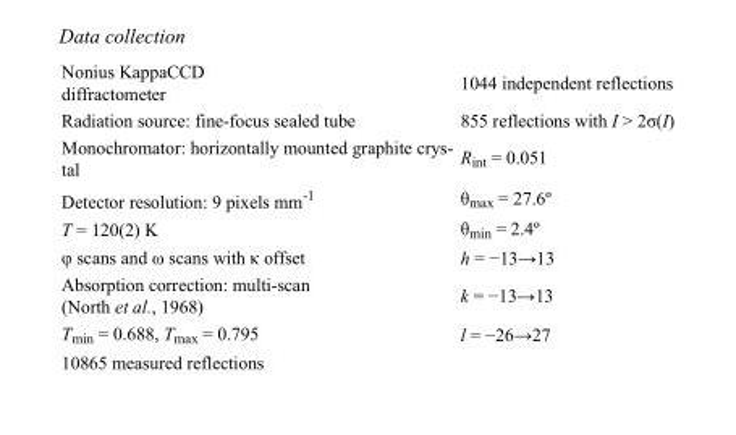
<table><tbody><tr><td>Nonius KappaCCD diffractometer</td><td>1044 independent reflections</td></tr><tr><td>Radiation source: fine-focus sealed tube</td><td>855 reflections with I &gt; 2σ(I)</td></tr><tr><td>Monochromator: horizontally mounted graphite crys- tal</td><td>R<sub>int</sub> = 0.051</td></tr><tr><td>Detector resolution: 9 pixels mm<sup>-1</sup></td><td>θ<sub>max</sub> = 27.6º</td></tr><tr><td>T = 120(2) K</td><td>θ<sub>min</sub> = 2.4º</td></tr><tr><td>φ scans and ω scans with κ offset</td><td>h = −13→13</td></tr><tr><td>Absorption correction: multi-scan (North et al., 1968)</td><td>k = −13→13</td></tr><tr><td>T<sub>min</sub> = 0.688, T<sub>max</sub> = 0.795</td><td>l = −26→27</td></tr><tr><td>10865 measured reflections</td><td></td></tr></tbody></table>